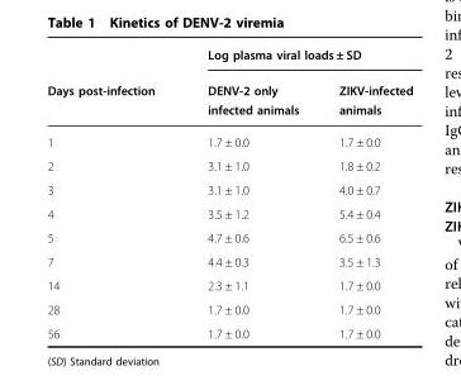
<table><thead><tr><td rowspan="2">Days post-infection</td><td colspan="2">Log plasma viral loads ± SD</td></tr><tr><td>DENV-2 only infected animals</td><td>ZIKV-infected animals</td></tr></thead><tbody><tr><td>1</td><td>1.7 ± 0.0</td><td>1.7 ± 0.0</td></tr><tr><td>2</td><td>3.1 ± 1.0</td><td>1.8 ± 0.2</td></tr><tr><td>3</td><td>3.1 ± 1.0</td><td>4.0 ± 0.7</td></tr><tr><td>4</td><td>3.5 ± 1.2</td><td>5.4 ± 0.4</td></tr><tr><td>5</td><td>4.7 ± 0.6</td><td>6.5 ± 0.6</td></tr><tr><td>7</td><td>4.4 ± 0.3</td><td>3.5 ± 1.3</td></tr><tr><td>14</td><td>2.3 ± 1.1</td><td>1.7 ± 0.0</td></tr><tr><td>28</td><td>1.7 ± 0.0</td><td>1.7 ± 0.0</td></tr><tr><td>56</td><td>1.7 ± 0.0</td><td>1.7 ± 0.0</td></tr></tbody></table>